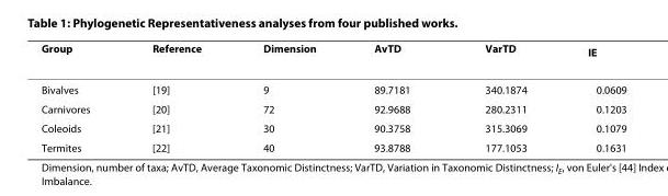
<table><thead><tr><td>Group</td><td>Reference</td><td>Dimension</td><td>AvTD</td><td>VarTD</td><td>I<sub>E</sub></td></tr></thead><tbody><tr><td>Bivalves</td><td>[19]</td><td>9</td><td>89.7181</td><td>340.1874</td><td>0.0609</td></tr><tr><td>Carnivores</td><td>[20]</td><td>72</td><td>92.9688</td><td>280.2311</td><td>0.1203</td></tr><tr><td>Coleoids</td><td>[21]</td><td>30</td><td>90.3758</td><td>315.3069</td><td>0.1079</td></tr><tr><td>Termites</td><td>[22]</td><td>40</td><td>93.8788</td><td>177.1053</td><td>0.1631</td></tr></tbody></table>